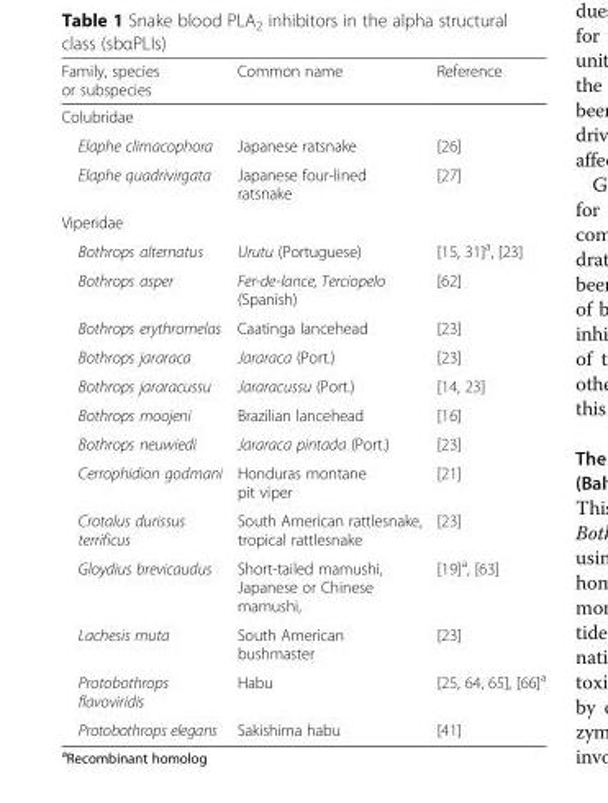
<table><thead><tr><td>Family, species or subspecies</td><td>Common name</td><td>Reference</td></tr></thead><tbody><tr><td colspan="3">Colubridae</td></tr><tr><td>Elaphe climacophora</td><td>Japanese ratsnake</td><td>[26]</td></tr><tr><td>Elaphe quadrivirgata</td><td>Japanese four-lined ratsnake</td><td>[27]</td></tr><tr><td colspan="3">Viperidae</td></tr><tr><td>Bothrops alternatus</td><td>Urutu (Portuguese)</td><td>[15, 31]<sup>a</sup>, [23]</td></tr><tr><td>Bothrops asper</td><td>Fer-de-lance, Terciopelo (Spanish)</td><td>[62]</td></tr><tr><td>Bothrops erythromelas</td><td>Caatinga lancehead</td><td>[23]</td></tr><tr><td>Bothrops jararaca</td><td>Jararaca (Port.)</td><td>[23]</td></tr><tr><td>Bothrops jararacussu</td><td>Jararacussu (Port.)</td><td>[14, 23]</td></tr><tr><td>Bothrops moojeni</td><td>Brazilian lancehead</td><td>[16]</td></tr><tr><td>Bothrops neuwiedi</td><td>Jararaca pintada (Port.)</td><td>[23]</td></tr><tr><td>Cerrophidion godmani</td><td>Honduras montane pit viper</td><td>[21]</td></tr><tr><td>Crotalus durissus terrificus</td><td>South American rattlesnake, tropical rattlesnake</td><td>[23]</td></tr><tr><td>Gloydius brevicaudus</td><td>Short-tailed mamushi, Japanese or Chinese mamushi,</td><td>[19]<sup>a</sup>, [63]</td></tr><tr><td>Lachesis muta</td><td>South American bushmaster</td><td>[23]</td></tr><tr><td>Protobothrops flavoviridis</td><td>Habu</td><td>[25, 64, 65], [66]<sup>a</sup></td></tr><tr><td>Protobothrops elegans</td><td>Sakishima habu</td><td>[41]</td></tr></tbody></table>